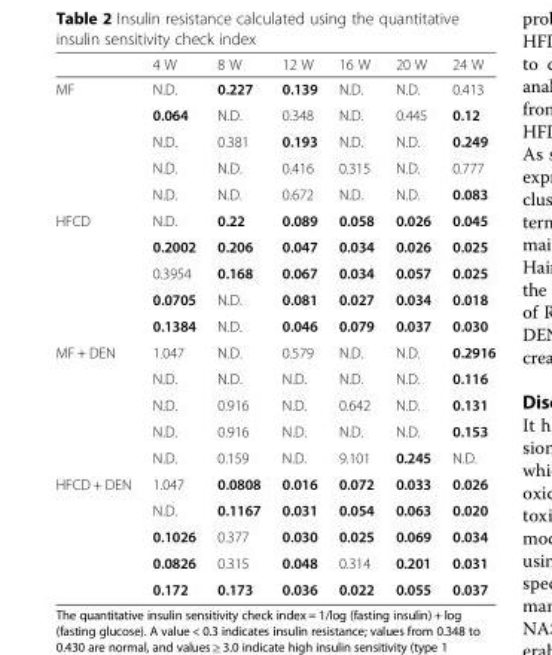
<table><thead><tr><td></td><td>4 W</td><td>8 W</td><td>12 W</td><td>16 W</td><td>20 W</td><td>24 W</td></tr></thead><tbody><tr><td rowspan="5">MF</td><td>N.D.</td><td>0.227</td><td>0.139</td><td>N.D.</td><td>N.D.</td><td>0.413</td></tr><tr><td>0.064</td><td>N.D.</td><td>0.348</td><td>N.D.</td><td>0.445</td><td>0.12</td></tr><tr><td>N.D.</td><td>0.381</td><td>0.193</td><td>N.D.</td><td>N.D.</td><td>0.249</td></tr><tr><td>N.D.</td><td>N.D.</td><td>0.416</td><td>0.315</td><td>N.D.</td><td>0.777</td></tr><tr><td>N.D.</td><td>N.D.</td><td>0.672</td><td>N.D.</td><td>N.D.</td><td>0.083</td></tr><tr><td rowspan="5">HFCD</td><td>N.D.</td><td>0.22</td><td>0.089</td><td>0.058</td><td>0.026</td><td>0.045</td></tr><tr><td>0.2002</td><td>0.206</td><td>0.047</td><td>0.034</td><td>0.026</td><td>0.025</td></tr><tr><td>0.3954</td><td>0.168</td><td>0.067</td><td>0.034</td><td>0.057</td><td>0.025</td></tr><tr><td>0.0705</td><td>N.D.</td><td>0.081</td><td>0.027</td><td>0.034</td><td>0.018</td></tr><tr><td>0.1384</td><td>N.D.</td><td>0.046</td><td>0.079</td><td>0.037</td><td>0.030</td></tr><tr><td rowspan="5">MF + DEN</td><td>1.047</td><td>N.D.</td><td>0.579</td><td>N.D.</td><td>N.D.</td><td>0.2916</td></tr><tr><td>N.D.</td><td>N.D.</td><td>N.D.</td><td>N.D.</td><td>N.D.</td><td>0.116</td></tr><tr><td>N.D.</td><td>0.916</td><td>N.D.</td><td>0.642</td><td>N.D.</td><td>0.131</td></tr><tr><td>N.D.</td><td>0.916</td><td>N.D.</td><td>N.D.</td><td>N.D.</td><td>0.153</td></tr><tr><td>N.D.</td><td>0.159</td><td>N.D.</td><td>9.101</td><td>0.245</td><td>N.D.</td></tr><tr><td rowspan="5">HFCD + DEN</td><td>1.047</td><td>0.0808</td><td>0.016</td><td>0.072</td><td>0.033</td><td>0.026</td></tr><tr><td>N.D.</td><td>0.1167</td><td>0.031</td><td>0.054</td><td>0.063</td><td>0.020</td></tr><tr><td>0.1026</td><td>0.377</td><td>0.030</td><td>0.025</td><td>0.069</td><td>0.034</td></tr><tr><td>0.0826</td><td>0.315</td><td>0.048</td><td>0.314</td><td>0.201</td><td>0.031</td></tr><tr><td>0.172</td><td>0.173</td><td>0.036</td><td>0.022</td><td>0.055</td><td>0.037</td></tr></tbody></table>